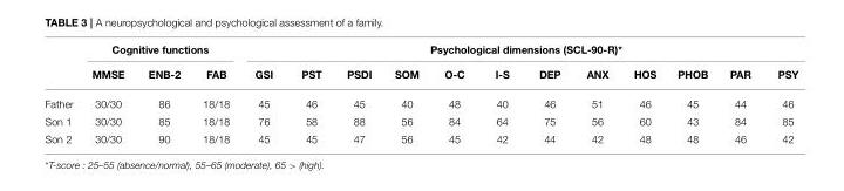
<table><thead><tr><td rowspan="2"></td><td colspan="3">Cognitive functions</td><td colspan="12">Psychological dimensions (SCL-90-R)*</td></tr><tr><td>MMSE</td><td>ENB-2</td><td>FAB</td><td>GSI</td><td>PST</td><td>PSDI</td><td>SOM</td><td>O-C</td><td>I-S</td><td>DEP</td><td>ANX</td><td>HOS</td><td>PHOB</td><td>PAR</td><td>PSY</td></tr></thead><tbody><tr><td>Father</td><td>30/30</td><td>86</td><td>18/18</td><td>45</td><td>46</td><td>45</td><td>40</td><td>48</td><td>40</td><td>46</td><td>51</td><td>46</td><td>45</td><td>44</td><td>46</td></tr><tr><td>Son 1</td><td>30/30</td><td>85</td><td>18/18</td><td>76</td><td>58</td><td>88</td><td>56</td><td>84</td><td>64</td><td>75</td><td>56</td><td>60</td><td>43</td><td>84</td><td>85</td></tr><tr><td>Son 2</td><td>30/30</td><td>90</td><td>18/18</td><td>45</td><td>45</td><td>47</td><td>56</td><td>45</td><td>42</td><td>44</td><td>42</td><td>48</td><td>48</td><td>46</td><td>42</td></tr></tbody></table>